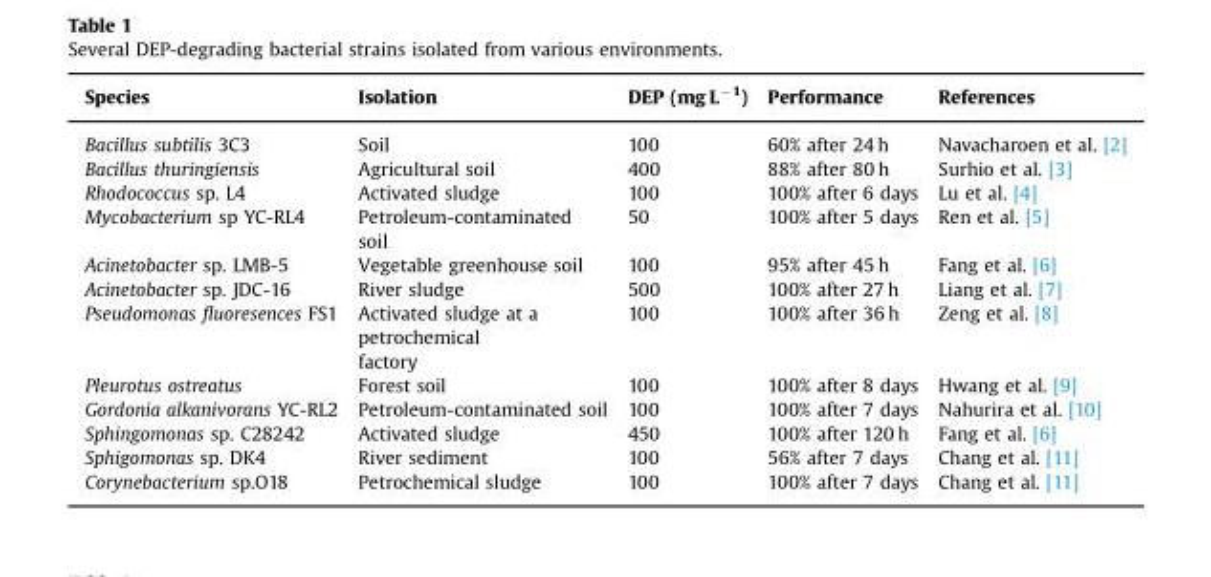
<table><thead><tr><td>Species</td><td>Isolation</td><td>DEP (mg L<sup>−1</sup>)</td><td>Performance</td><td>References</td></tr></thead><tbody><tr><td>Bacillus subtilis 3C3</td><td>Soil</td><td>100</td><td>60% after 24 h</td><td>Navacharoen et al. [2]</td></tr><tr><td>Bacillus thuringiensis</td><td>Agricultural soil</td><td>400</td><td>88% after 80 h</td><td>Surhio et al. [3]</td></tr><tr><td>Rhodococcus sp. L4</td><td>Activated sludge</td><td>100</td><td>100% after 6 days</td><td>Lu et al. [4]</td></tr><tr><td>Mycobacterium sp YC-RL4</td><td>Petroleum-contaminated soil</td><td>50</td><td>100% after 5 days</td><td>Ren et al. [5]</td></tr><tr><td>Acinetobacter sp. LMB-5</td><td>Vegetable greenhouse soil</td><td>100</td><td>95% after 45 h</td><td>Fang et al. [6]</td></tr><tr><td>Acinetobacter sp. JDC-16</td><td>River sludge</td><td>500</td><td>100% after 27 h</td><td>Liang et al. [7]</td></tr><tr><td>Pseudomonas fluoresences FS1</td><td>Activated sludge at a petrochemical factory</td><td>100</td><td>100% after 36 h</td><td>Zeng et al. [8]</td></tr><tr><td>Pleurotus ostreatus</td><td>Forest soil</td><td>100</td><td>100% after 8 days</td><td>Hwang et al. [9]</td></tr><tr><td>Gordonia alkanivorans YC-RL2</td><td>Petroleum-contaminated soil</td><td>100</td><td>100% after 7 days</td><td>Nahurira et al. [10]</td></tr><tr><td>Sphingomonas sp. C28242</td><td>Activated sludge</td><td>450</td><td>100% after 120 h</td><td>Fang et al. [6]</td></tr><tr><td>Sphigomonas sp. DK4</td><td>River sediment</td><td>100</td><td>56% after 7 days</td><td>Chang et al. [11]</td></tr><tr><td>Corynebacterium sp.O18</td><td>Petrochemical sludge</td><td>100</td><td>100% after 7 days</td><td>Chang et al. [11]</td></tr></tbody></table>